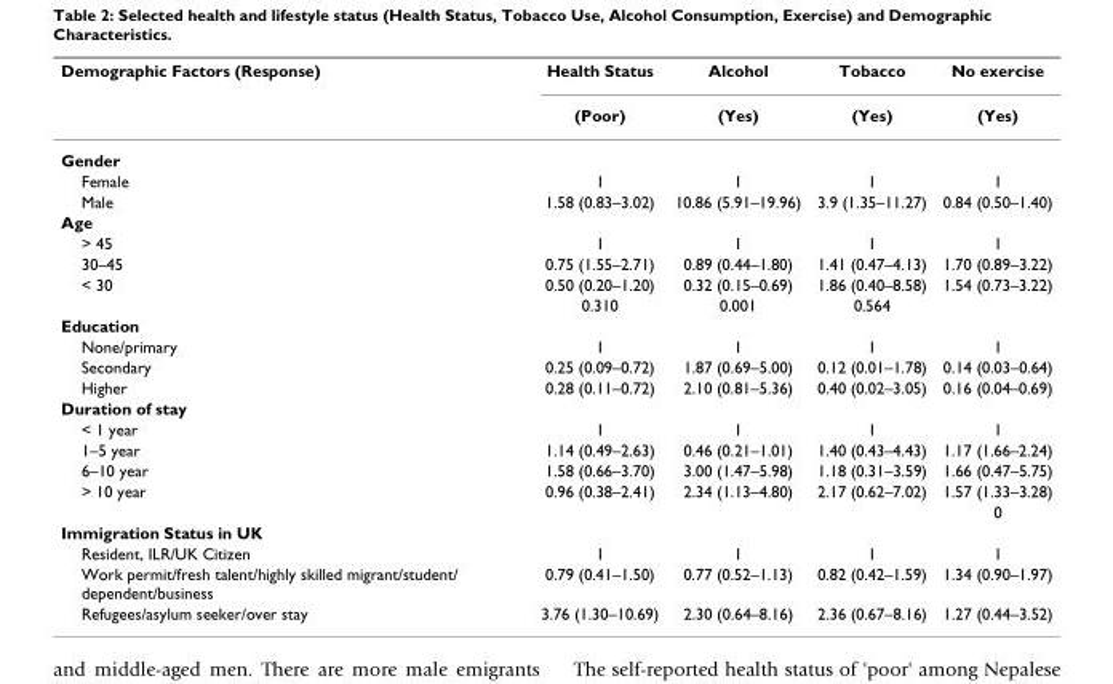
<table><thead><tr><td rowspan="2">Demographic Factors (Response)</td><td rowspan="2">Health Status (Poor)</td><td rowspan="2">Alcohol (Yes)</td><td rowspan="2">Tobacco (Yes)</td><td rowspan="2">No exercise (Yes)</td></tr><tr></tr></thead><tbody><tr><td colspan="5">Gender</td></tr><tr><td>Female</td><td>1</td><td>1</td><td>1</td><td>1</td></tr><tr><td>Male</td><td>1.58 (0.83–3.02)</td><td>10.86 (5.91–19.96)</td><td>3.9 (1.35–11.27)</td><td>0.84 (0.50–1.40)</td></tr><tr><td colspan="5">Age</td></tr><tr><td>&gt; 45</td><td>1</td><td>1</td><td>1</td><td>1</td></tr><tr><td>30–45</td><td>0.75 (1.55–2.71)</td><td>0.89 (0.44–1.80)</td><td>1.41 (0.47–4.13)</td><td>1.70 (0.89–3.22)</td></tr><tr><td rowspan="2">&lt; 30</td><td>0.50 (0.20–1.20)</td><td>0.32 (0.15–0.69)</td><td>1.86 (0.40–8.58)</td><td>1.54 (0.73–3.22)</td></tr><tr><td>0.310</td><td>0.001</td><td>0.564</td><td></td></tr><tr><td colspan="5">Education</td></tr><tr><td>None/primary</td><td>1</td><td>1</td><td>1</td><td>1</td></tr><tr><td>Secondary</td><td>0.25 (0.09–0.72)</td><td>1.87 (0.69–5.00)</td><td>0.12 (0.01–1.78)</td><td>0.14 (0.03–0.64)</td></tr><tr><td>Higher</td><td>0.28 (0.11–0.72)</td><td>2.10 (0.81–5.36)</td><td>0.40 (0.02–3.05)</td><td>0.16 (0.04–0.69)</td></tr><tr><td colspan="5">Duration of stay</td></tr><tr><td>&lt; 1 year</td><td>1</td><td>1</td><td>1</td><td>1</td></tr><tr><td>1–5 year</td><td>1.14 (0.49–2.63)</td><td>0.46 (0.21–1.01)</td><td>1.40 (0.43–4.43)</td><td>1.17 (1.66–2.24)</td></tr><tr><td>6–10 year</td><td>1.58 (0.66–3.70)</td><td>3.00 (1.47–5.98)</td><td>1.18 (0.31–3.59)</td><td>1.66 (0.47–5.75)</td></tr><tr><td rowspan="2">&gt; 10 year</td><td>0.96 (0.38–2.41)</td><td>2.34 (1.13–4.80)</td><td>2.17 (0.62–7.02)</td><td>1.57 (1.33–3.28)</td></tr><tr><td></td><td></td><td></td><td>0</td></tr><tr><td colspan="5">Immigration Status in UK</td></tr><tr><td>Resident, ILR/UK Citizen</td><td>1</td><td>1</td><td>1</td><td>1</td></tr><tr><td>Work permit/fresh talent/highly skilled migrant/student/ dependent/business</td><td>0.79 (0.41–1.50)</td><td>0.77 (0.52–1.13)</td><td>0.82 (0.42–1.59)</td><td>1.34 (0.90–1.97)</td></tr><tr><td>Refugees/asylum seeker/over stay</td><td>3.76 (1.30–10.69)</td><td>2.30 (0.64–8.16)</td><td>2.36 (0.67–8.16)</td><td>1.27 (0.44–3.52)</td></tr></tbody></table>